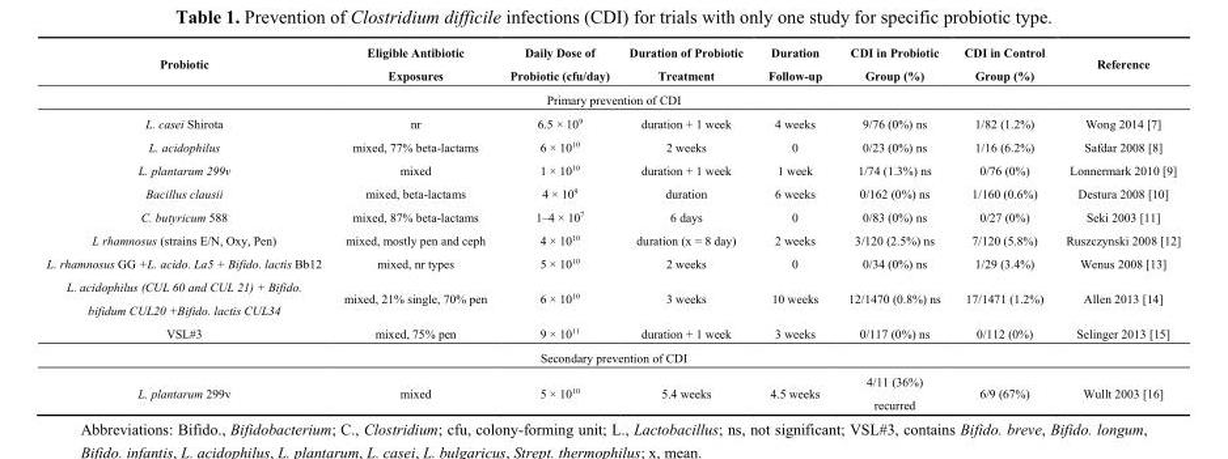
<table><thead><tr><td>Probiotic</td><td>Eligible Antibiotic Exposures</td><td>Daily Dose of Probiotic (cfu/day)</td><td>Duration of Probiotic Treatment</td><td>Duration Follow-up</td><td>CDI in Probiotic Group (%)</td><td>CDI in Control Group (%)</td><td>Reference</td></tr></thead><tbody><tr><td colspan="8">Primary prevention of CDI</td></tr><tr><td>L. casei Shirota</td><td>nr</td><td>6.5 × 10<sup>9</sup></td><td>duration + 1 week</td><td>4 weeks</td><td>9/76 (0%) ns</td><td>1/82 (1.2%)</td><td>Wong 2014 [7]</td></tr><tr><td>L. acidophilus</td><td>mixed, 77% beta-lactams</td><td>6 × 10<sup>10</sup></td><td>2 weeks</td><td>0</td><td>0/23 (0%) ns</td><td>1/16 (6.2%)</td><td>Safdar 2008 [8]</td></tr><tr><td>L. plantarum 299v</td><td>mixed</td><td>1 × 10<sup>10</sup></td><td>duration + 1 week</td><td>1 week</td><td>1/74 (1.3%) ns</td><td>0/76 (0%)</td><td>Lonnermark 2010 [9]</td></tr><tr><td>Bacillus clausii</td><td>mixed, beta-lactams</td><td>4 × 10<sup>9</sup></td><td>duration</td><td>6 weeks</td><td>0/162 (0%) ns</td><td>1/160 (0.6%)</td><td>Destura 2008 [10]</td></tr><tr><td>C. butyricum 588</td><td>mixed, 87% beta-lactams</td><td>1–4 × 10<sup>7</sup></td><td>6 days</td><td>0</td><td>0/83 (0%) ns</td><td>0/27 (0%)</td><td>Seki 2003 [11]</td></tr><tr><td>L rhamnosus (strains E/N, Oxy, Pen)</td><td>mixed, mostly pen and ceph</td><td>4 × 10<sup>10</sup></td><td>duration (x = 8 day)</td><td>2 weeks</td><td>3/120 (2.5%) ns</td><td>7/120 (5.8%)</td><td>Ruszczynski 2008 [12]</td></tr><tr><td>L. rhamnosus GG +L. acido. La5 + Bifido. lactis Bb12</td><td>mixed, nr types</td><td>5 × 10<sup>10</sup></td><td>2 weeks</td><td>0</td><td>0/34 (0%) ns</td><td>1/29 (3.4%)</td><td>Wenus 2008 [13]</td></tr><tr><td>L. acidophilus (CUL 60 and CUL 21) + Bifido. bifidum CUL20 +Bifido. lactis CUL34</td><td>mixed, 21% single, 70% pen</td><td>6 × 10<sup>10</sup></td><td>3 weeks</td><td>10 weeks</td><td>12/1470 (0.8%) ns</td><td>17/1471 (1.2%)</td><td>Allen 2013 [14]</td></tr><tr><td>VSL#3</td><td>mixed, 75% pen</td><td>9 × 10<sup>11</sup></td><td>duration + 1 week</td><td>3 weeks</td><td>0/117 (0%) ns</td><td>0/112 (0%)</td><td>Selinger 2013 [15]</td></tr><tr><td colspan="8">Secondary prevention of CDI</td></tr><tr><td>L. plantarum 299v</td><td>mixed</td><td>5 × 10<sup>10</sup></td><td>5.4 weeks</td><td>4.5 weeks</td><td>4/11 (36%) recurred</td><td>6/9 (67%)</td><td>Wullt 2003 [16]</td></tr></tbody></table>